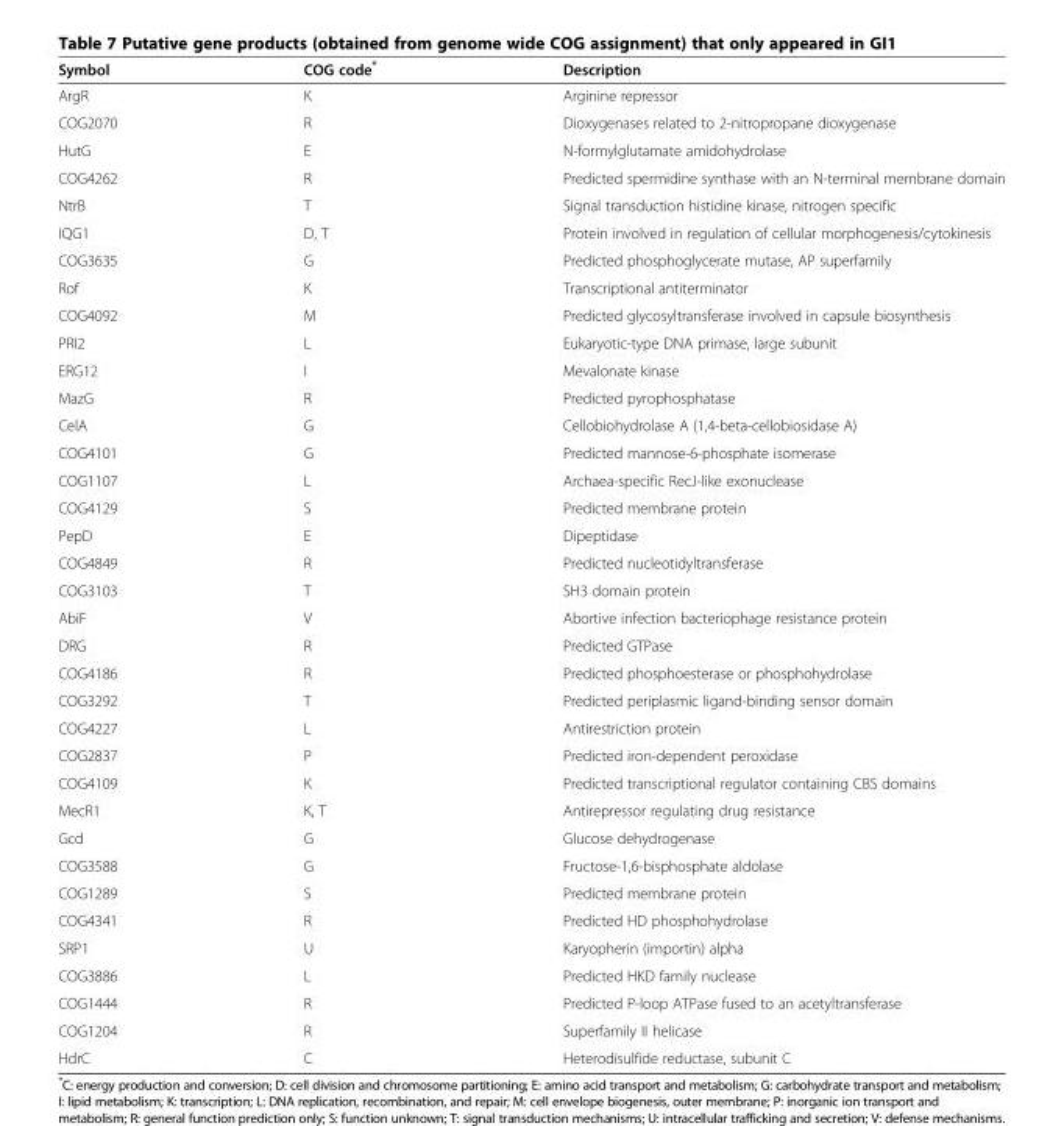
<table><thead><tr><td>Symbol</td><td>COG code*</td><td>Description</td></tr></thead><tbody><tr><td>ArgR</td><td>K</td><td>Arginine repressor</td></tr><tr><td>COG2070</td><td>R</td><td>Dioxygenases related to 2-nitropropane dioxygenase</td></tr><tr><td>HutG</td><td>E</td><td>N-formylglutamate amidohydrolase</td></tr><tr><td>COG4262</td><td>R</td><td>Predicted spermidine synthase with an N-terminal membrane domain</td></tr><tr><td>NtrB</td><td>T</td><td>Signal transduction histidine kinase, nitrogen specific</td></tr><tr><td>IQG1</td><td>D, T</td><td>Protein involved in regulation of cellular morphogenesis/cytokinesis</td></tr><tr><td>COG3635</td><td>G</td><td>Predicted phosphoglycerate mutase, AP superfamily</td></tr><tr><td>Rof</td><td>K</td><td>Transcriptional antiterminator</td></tr><tr><td>COG4092</td><td>M</td><td>Predicted glycosyltransferase involved in capsule biosynthesis</td></tr><tr><td>PRI2</td><td>L</td><td>Eukaryotic-type DNA primase, large subunit</td></tr><tr><td>ERG12</td><td>I</td><td>Mevalonate kinase</td></tr><tr><td>MazG</td><td>R</td><td>Predicted pyrophosphatase</td></tr><tr><td>CelA</td><td>G</td><td>Cellobiohydrolase A (1,4-beta-cellobiosidase A)</td></tr><tr><td>COG4101</td><td>G</td><td>Predicted mannose-6-phosphate isomerase</td></tr><tr><td>COG1107</td><td>L</td><td>Archaea-specific RecJ-like exonuclease</td></tr><tr><td>COG4129</td><td>S</td><td>Predicted membrane protein</td></tr><tr><td>PepD</td><td>E</td><td>Dipeptidase</td></tr><tr><td>COG4849</td><td>R</td><td>Predicted nucleotidyltransferase</td></tr><tr><td>COG3103</td><td>T</td><td>SH3 domain protein</td></tr><tr><td>AbiF</td><td>V</td><td>Abortive infection bacteriophage resistance protein</td></tr><tr><td>DRG</td><td>R</td><td>Predicted GTPase</td></tr><tr><td>COG4186</td><td>R</td><td>Predicted phosphoesterase or phosphohydrolase</td></tr><tr><td>COG3292</td><td>T</td><td>Predicted periplasmic ligand-binding sensor domain</td></tr><tr><td>COG4227</td><td>L</td><td>Antirestriction protein</td></tr><tr><td>COG2837</td><td>P</td><td>Predicted iron-dependent peroxidase</td></tr><tr><td>COG4109</td><td>K</td><td>Predicted transcriptional regulator containing CBS domains</td></tr><tr><td>MecR1</td><td>K, T</td><td>Antirepressor regulating drug resistance</td></tr><tr><td>Gcd</td><td>G</td><td>Glucose dehydrogenase</td></tr><tr><td>COG3588</td><td>G</td><td>Fructose-1,6-bisphosphate aldolase</td></tr><tr><td>COG1289</td><td>S</td><td>Predicted membrane protein</td></tr><tr><td>COG4341</td><td>R</td><td>Predicted HD phosphohydrolase</td></tr><tr><td>SRP1</td><td>U</td><td>Karyopherin (importin) alpha</td></tr><tr><td>COG3886</td><td>L</td><td>Predicted HKD family nuclease</td></tr><tr><td>COG1444</td><td>R</td><td>Predicted P-loop ATPase fused to an acetyltransferase</td></tr><tr><td>COG1204</td><td>R</td><td>Superfamily II helicase</td></tr><tr><td>HdrC</td><td>C</td><td>Heterodisulfide reductase, subunit C</td></tr></tbody></table>